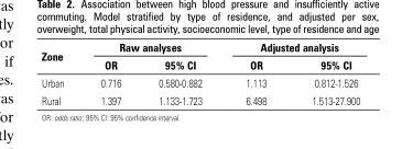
<table><thead><tr><td rowspan="2">Zone</td><td colspan="2">Raw analyses</td><td colspan="2">Adjusted analysis</td></tr><tr><td>OR</td><td>95% CI</td><td>OR</td><td>95% CI</td></tr></thead><tbody><tr><td>Urban</td><td>0.716</td><td>0.580-0.882</td><td>1.113</td><td>0.812-1.526</td></tr><tr><td>Rural</td><td>1.397</td><td>1.133-1.723</td><td>6.498</td><td>1.513-27.900</td></tr></tbody></table>